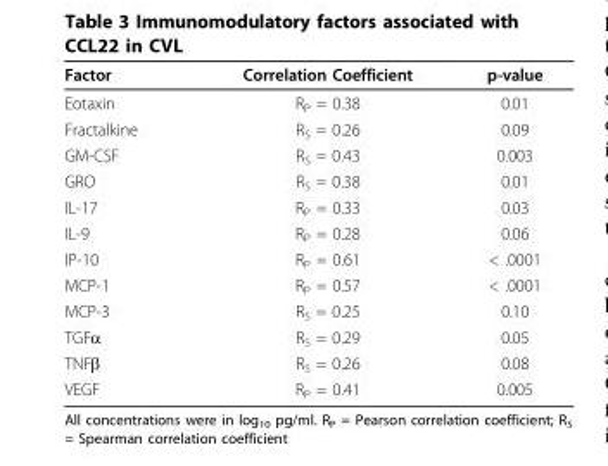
<table><thead><tr><td>Factor</td><td>Correlation Coefficient</td><td>p-value</td></tr></thead><tbody><tr><td>Eotaxin</td><td>R<sub>P</sub> = 0.38</td><td>0.01</td></tr><tr><td>Fractalkine</td><td>R<sub>S</sub> = 0.26</td><td>0.09</td></tr><tr><td>GM-CSF</td><td>R<sub>S</sub> = 0.43</td><td>0.003</td></tr><tr><td>GRO</td><td>R<sub>S</sub> = 0.38</td><td>0.01</td></tr><tr><td>IL-17</td><td>R<sub>P</sub> = 0.33</td><td>0.03</td></tr><tr><td>IL-9</td><td>R<sub>P</sub> = 0.28</td><td>0.06</td></tr><tr><td>IP-10</td><td>R<sub>P</sub> = 0.61</td><td>&lt; .0001</td></tr><tr><td>MCP-1</td><td>R<sub>P</sub> = 0.57</td><td>&lt; .0001</td></tr><tr><td>MCP-3</td><td>R<sub>S</sub> = 0.25</td><td>0.10</td></tr><tr><td>TGFα</td><td>R<sub>S</sub> = 0.29</td><td>0.05</td></tr><tr><td>TNFβ</td><td>R<sub>S</sub> = 0.26</td><td>0.08</td></tr><tr><td>VEGF</td><td>R<sub>P</sub> = 0.41</td><td>0.005</td></tr></tbody></table>